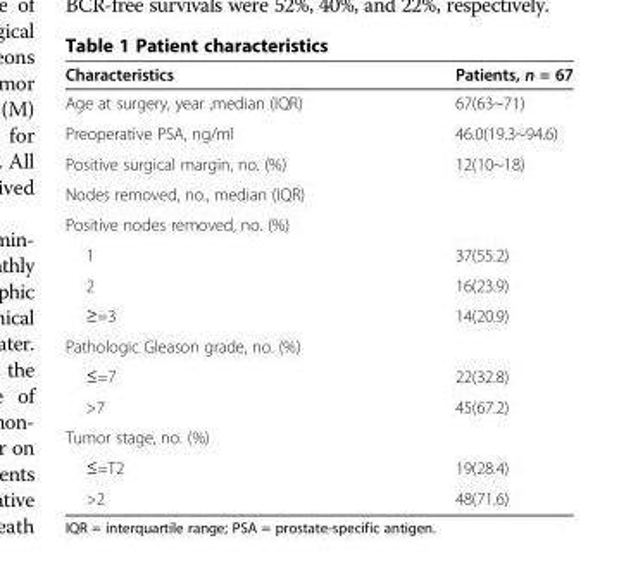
<table><thead><tr><td>Characteristics</td><td>Patients, n = 67</td></tr></thead><tbody><tr><td>Age at surgery, year ,median (IQR)</td><td>67(63~71)</td></tr><tr><td>Preoperative PSA, ng/ml</td><td>46.0(19.3~94.6)</td></tr><tr><td>Positive surgical margin, no. (%)</td><td>12(10~18)</td></tr><tr><td colspan="2">Nodes removed, no., median (IQR)</td></tr><tr><td colspan="2">Positive nodes removed, no. (%)</td></tr><tr><td>1</td><td>37(55.2)</td></tr><tr><td>2</td><td>16(23.9)</td></tr><tr><td>≥=3</td><td>14(20.9)</td></tr><tr><td colspan="2">Pathologic Gleason grade, no. (%)</td></tr><tr><td>≤=7</td><td>22(32.8)</td></tr><tr><td>&gt;7</td><td>45(67.2)</td></tr><tr><td colspan="2">Tumor stage, no. (%)</td></tr><tr><td>≤=T2</td><td>19(28.4)</td></tr><tr><td>&gt;2</td><td>48(71.6)</td></tr></tbody></table>